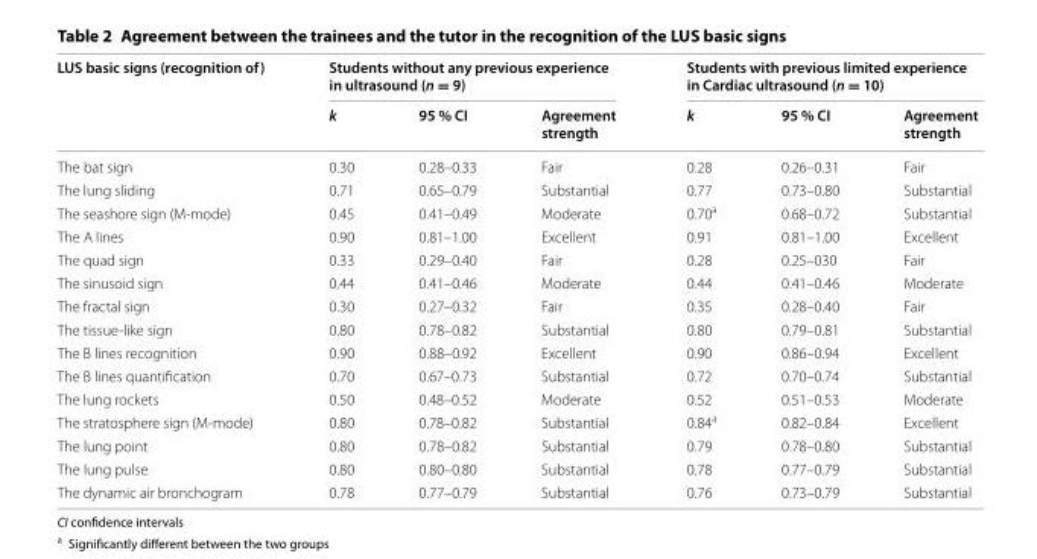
<table><thead><tr><td rowspan="2">LUS basic signs (recognition of)</td><td colspan="3">Students without any previous experience in ultrasound (n = 9)</td><td colspan="3">Students with previous limited experience in Cardiac ultrasound (n = 10)</td></tr><tr><td>k</td><td>95 % CI</td><td>Agreement strength</td><td>k</td><td>95 % CI</td><td>Agreement strength</td></tr></thead><tbody><tr><td>The bat sign</td><td>0.30</td><td>0.28–0.33</td><td>Fair</td><td>0.28</td><td>0.26–0.31</td><td>Fair</td></tr><tr><td>The lung sliding</td><td>0.71</td><td>0.65–0.79</td><td>Substantial</td><td>0.77</td><td>0.73–0.80</td><td>Substantial</td></tr><tr><td>The seashore sign (M-mode)</td><td>0.45</td><td>0.41–0.49</td><td>Moderate</td><td>0.70<sup>a</sup></td><td>0.68–0.72</td><td>Substantial</td></tr><tr><td>The A lines</td><td>0.90</td><td>0.81–1.00</td><td>Excellent</td><td>0.91</td><td>0.81–1.00</td><td>Excellent</td></tr><tr><td>The quad sign</td><td>0.33</td><td>0.29–0.40</td><td>Fair</td><td>0.28</td><td>0.25–030</td><td>Fair</td></tr><tr><td>The sinusoid sign</td><td>0.44</td><td>0.41–0.46</td><td>Moderate</td><td>0.44</td><td>0.41–0.46</td><td>Moderate</td></tr><tr><td>The fractal sign</td><td>0.30</td><td>0.27–0.32</td><td>Fair</td><td>0.35</td><td>0.28–0.40</td><td>Fair</td></tr><tr><td>The tissue-like sign</td><td>0.80</td><td>0.78–0.82</td><td>Substantial</td><td>0.80</td><td>0.79–0.81</td><td>Substantial</td></tr><tr><td>The B lines recognition</td><td>0.90</td><td>0.88–0.92</td><td>Excellent</td><td>0.90</td><td>0.86–0.94</td><td>Excellent</td></tr><tr><td>The B lines quantification</td><td>0.70</td><td>0.67–0.73</td><td>Substantial</td><td>0.72</td><td>0.70–0.74</td><td>Substantial</td></tr><tr><td>The lung rockets</td><td>0.50</td><td>0.48–0.52</td><td>Moderate</td><td>0.52</td><td>0.51–0.53</td><td>Moderate</td></tr><tr><td>The stratosphere sign (M-mode)</td><td>0.80</td><td>0.78–0.82</td><td>Substantial</td><td>0.84<sup>a</sup></td><td>0.82–0.84</td><td>Excellent</td></tr><tr><td>The lung point</td><td>0.80</td><td>0.78–0.82</td><td>Substantial</td><td>0.79</td><td>0.78–0.80</td><td>Substantial</td></tr><tr><td>The lung pulse</td><td>0.80</td><td>0.80–0.80</td><td>Substantial</td><td>0.78</td><td>0.77–0.79</td><td>Substantial</td></tr><tr><td>The dynamic air bronchogram</td><td>0.78</td><td>0.77–0.79</td><td>Substantial</td><td>0.76</td><td>0.73–0.79</td><td>Substantial</td></tr></tbody></table>